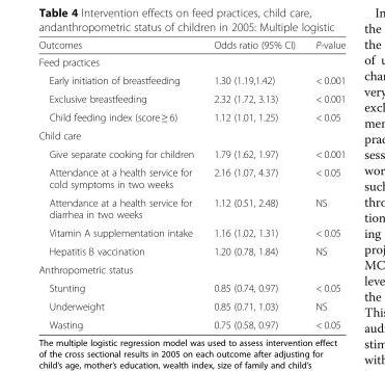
<table><thead><tr><td>Outcomes</td><td>Odds ratio (95% CI)</td><td>P-value</td></tr></thead><tbody><tr><td colspan="3">Feed practices</td></tr><tr><td>Early initiation of breastfeeding</td><td>1.30 (1.19,1.42)</td><td>&lt; 0.001</td></tr><tr><td>Exclusive breastfeeding</td><td>2.32 (1.72, 3.13)</td><td>&lt; 0.001</td></tr><tr><td>Child feeding index (score ≥ 6)</td><td>1.12 (1.01, 1.25)</td><td>&lt; 0.05</td></tr><tr><td colspan="3">Child care</td></tr><tr><td>Give separate cooking for children</td><td>1.79 (1.62, 1.97)</td><td>&lt; 0.001</td></tr><tr><td>Attendance at a health service for cold symptoms in two weeks</td><td>2.16 (1.07, 4.37)</td><td>&lt; 0.05</td></tr><tr><td>Attendance at a health service for diarrhea in two weeks</td><td>1.12 (0.51, 2.48)</td><td>NS</td></tr><tr><td>Vitamin A supplementation intake</td><td>1.16 (1.02, 1.31)</td><td>&lt; 0.05</td></tr><tr><td>Hepatitis B vaccination</td><td>1.20 (0.78, 1.84)</td><td>NS</td></tr><tr><td colspan="3">Anthropometric status</td></tr><tr><td>Stunting</td><td>0.85 (0.74, 0.97)</td><td>&lt; 0.05</td></tr><tr><td>Underweight</td><td>0.85 (0.71, 1.03)</td><td>NS</td></tr><tr><td>Wasting</td><td>0.75 (0.58, 0.97)</td><td>&lt; 0.05</td></tr></tbody></table>